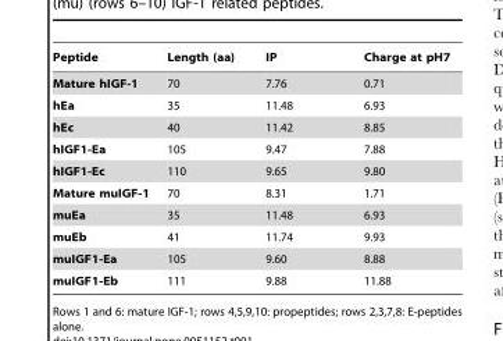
<table><thead><tr><td>Peptide</td><td>Length (aa)</td><td>IP</td><td>Charge at pH7</td></tr></thead><tbody><tr><td>Mature hIGF-1</td><td>70</td><td>7.76</td><td>0.71</td></tr><tr><td>hEa</td><td>35</td><td>11.48</td><td>6.93</td></tr><tr><td>hEc</td><td>40</td><td>11.42</td><td>8.85</td></tr><tr><td>hIGF1-Ea</td><td>105</td><td>9.47</td><td>7.88</td></tr><tr><td>hIGF1-Ec</td><td>110</td><td>9.65</td><td>9.80</td></tr><tr><td>Mature muIGF-1</td><td>70</td><td>8.31</td><td>1.71</td></tr><tr><td>muEa</td><td>35</td><td>11.48</td><td>6.93</td></tr><tr><td>muEb</td><td>41</td><td>11.74</td><td>9.93</td></tr><tr><td>muIGF1-Ea</td><td>105</td><td>9.60</td><td>8.88</td></tr><tr><td>muIGF1-Eb</td><td>111</td><td>9.88</td><td>11.88</td></tr></tbody></table>